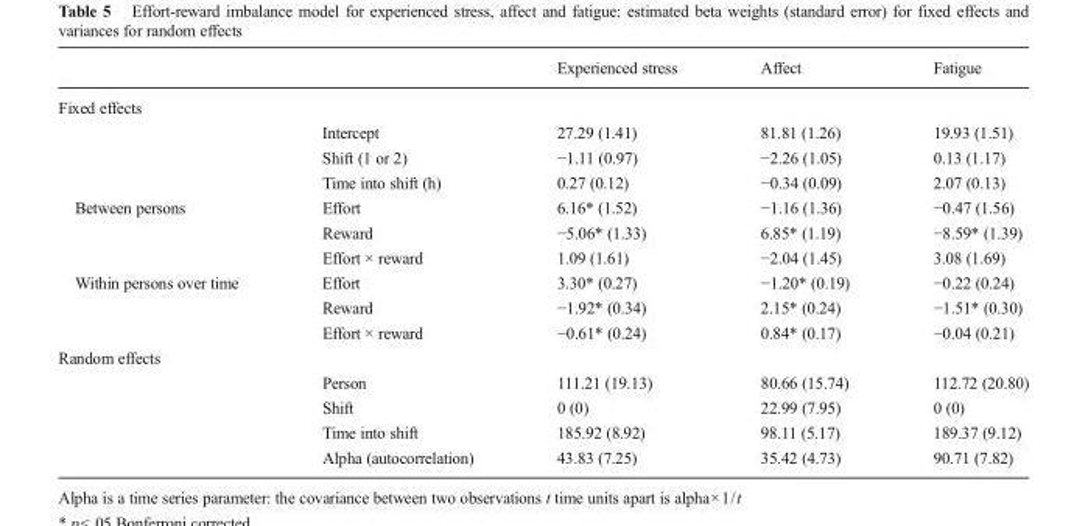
<table><thead><tr><td></td><td></td><td>Experienced stress</td><td>Affect</td><td>Fatigue</td></tr></thead><tbody><tr><td colspan="5">Fixed effects</td></tr><tr><td></td><td>Intercept</td><td>27.29 (1.41)</td><td>81.81 (1.26)</td><td>19.93 (1.51)</td></tr><tr><td></td><td>Shift (1 or 2)</td><td>−1.11 (0.97)</td><td>−2.26 (1.05)</td><td>0.13 (1.17)</td></tr><tr><td></td><td>Time into shift (h)</td><td>0.27 (0.12)</td><td>−0.34 (0.09)</td><td>2.07 (0.13)</td></tr><tr><td rowspan="3">Between persons</td><td>Effort</td><td>6.16* (1.52)</td><td>−1.16 (1.36)</td><td>−0.47 (1.56)</td></tr><tr><td>Reward</td><td>−5.06* (1.33)</td><td>6.85* (1.19)</td><td>−8.59* (1.39)</td></tr><tr><td>Effort × reward</td><td>1.09 (1.61)</td><td>−2.04 (1.45)</td><td>3.08 (1.69)</td></tr><tr><td rowspan="3">Within persons over time</td><td>Effort</td><td>3.30* (0.27)</td><td>−1.20* (0.19)</td><td>−0.22 (0.24)</td></tr><tr><td>Reward</td><td>−1.92* (0.34)</td><td>2.15* (0.24)</td><td>−1.51* (0.30)</td></tr><tr><td>Effort × reward</td><td>−0.61* (0.24)</td><td>0.84* (0.17)</td><td>−0.04 (0.21)</td></tr><tr><td colspan="5">Random effects</td></tr><tr><td></td><td>Person</td><td>111.21 (19.13)</td><td>80.66 (15.74)</td><td>112.72 (20.80)</td></tr><tr><td></td><td>Shift</td><td>0 (0)</td><td>22.99 (7.95)</td><td>0 (0)</td></tr><tr><td></td><td>Time into shift</td><td>185.92 (8.92)</td><td>98.11 (5.17)</td><td>189.37 (9.12)</td></tr><tr><td></td><td>Alpha (autocorrelation)</td><td>43.83 (7.25)</td><td>35.42 (4.73)</td><td>90.71 (7.82)</td></tr></tbody></table>